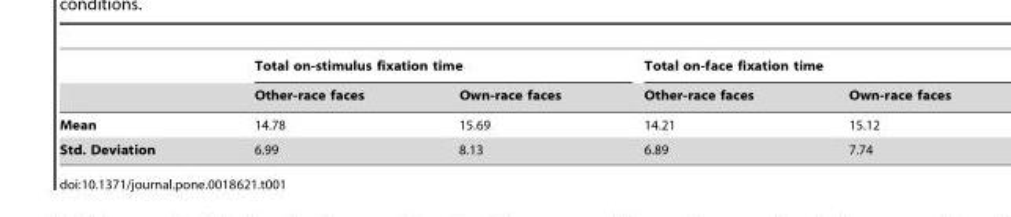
<table><thead><tr><td rowspan="2"></td><td colspan="2">Total on-stimulus fixation time</td><td colspan="2">Total on-face fixation time</td></tr><tr><td>Other-race faces</td><td>Own-race faces</td><td>Other-race faces</td><td>Own-race faces</td></tr></thead><tbody><tr><td>Mean</td><td>14.78</td><td>15.69</td><td>14.21</td><td>15.12</td></tr><tr><td>Std. Deviation</td><td>6.99</td><td>8.13</td><td>6.89</td><td>7.74</td></tr></tbody></table>